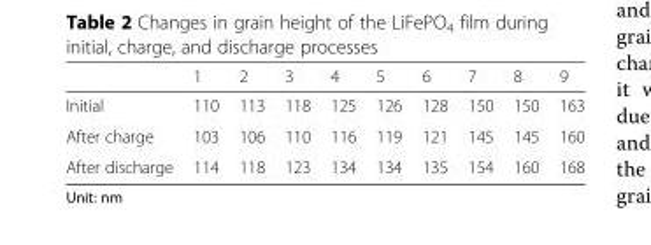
<table><thead><tr><td></td><td>1</td><td>2</td><td>3</td><td>4</td><td>5</td><td>6</td><td>7</td><td>8</td><td>9</td></tr></thead><tbody><tr><td>Initial</td><td>110</td><td>113</td><td>118</td><td>125</td><td>126</td><td>128</td><td>150</td><td>150</td><td>163</td></tr><tr><td>After charge</td><td>103</td><td>106</td><td>110</td><td>116</td><td>119</td><td>121</td><td>145</td><td>145</td><td>160</td></tr><tr><td>After discharge</td><td>114</td><td>118</td><td>123</td><td>134</td><td>134</td><td>135</td><td>154</td><td>160</td><td>168</td></tr></tbody></table>